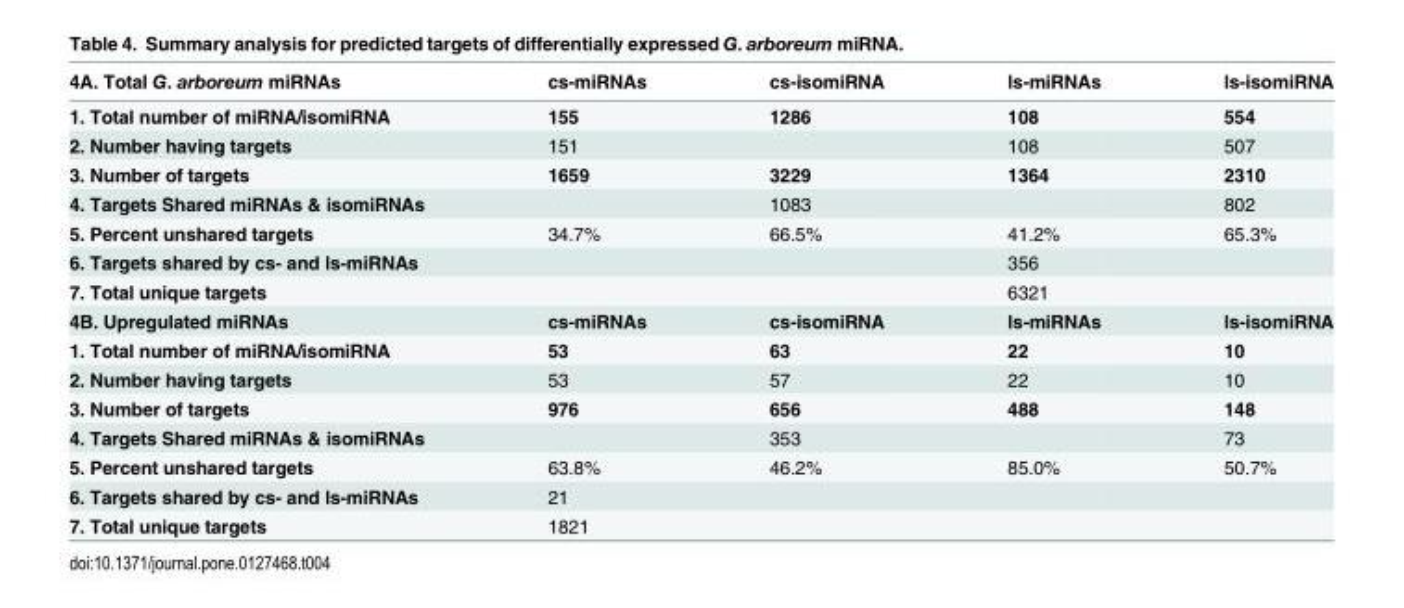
<table><thead><tr><td>4A. Total G. arboreum miRNAs</td><td>cs-miRNAs</td><td>cs-isomiRNA</td><td>ls-miRNAs</td><td>ls-isomiRNA</td></tr></thead><tbody><tr><td>1. Total number of miRNA/isomiRNA</td><td>155</td><td>1286</td><td>108</td><td>554</td></tr><tr><td>2. Number having targets</td><td>151</td><td></td><td>108</td><td>507</td></tr><tr><td>3. Number of targets</td><td>1659</td><td>3229</td><td>1364</td><td>2310</td></tr><tr><td>4. Targets Shared miRNAs &amp; isomiRNAs</td><td></td><td>1083</td><td></td><td>802</td></tr><tr><td>5. Percent unshared targets</td><td>34.7%</td><td>66.5%</td><td>41.2%</td><td>65.3%</td></tr><tr><td>6. Targets shared by cs- and ls-miRNAs</td><td></td><td></td><td>356</td><td></td></tr><tr><td>7. Total unique targets</td><td></td><td></td><td>6321</td><td></td></tr><tr><td>4B. Upregulated miRNAs</td><td>cs-miRNAs</td><td>cs-isomiRNA</td><td>ls-miRNAs</td><td>ls-isomiRNA</td></tr><tr><td>1. Total number of miRNA/isomiRNA</td><td>53</td><td>63</td><td>22</td><td>10</td></tr><tr><td>2. Number having targets</td><td>53</td><td>57</td><td>22</td><td>10</td></tr><tr><td>3. Number of targets</td><td>976</td><td>656</td><td>488</td><td>148</td></tr><tr><td>4. Targets Shared miRNAs &amp; isomiRNAs</td><td></td><td>353</td><td></td><td>73</td></tr><tr><td>5. Percent unshared targets</td><td>63.8%</td><td>46.2%</td><td>85.0%</td><td>50.7%</td></tr><tr><td>6. Targets shared by cs- and ls-miRNAs</td><td>21</td><td></td><td></td><td></td></tr><tr><td>7. Total unique targets</td><td>1821</td><td></td><td></td><td></td></tr></tbody></table>